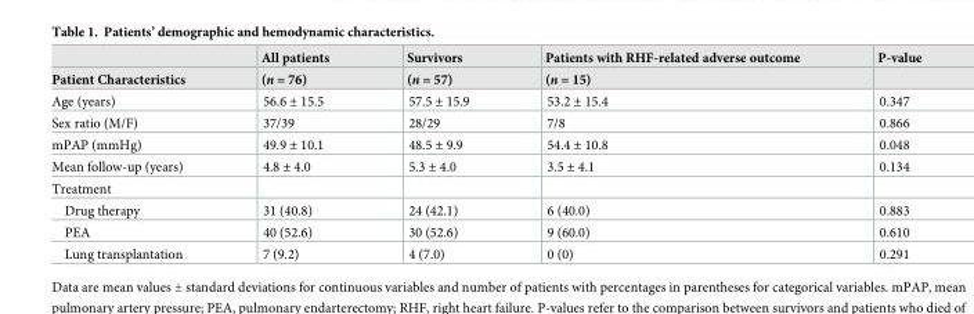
<table><thead><tr><td rowspan="2">Patient Characteristics</td><td rowspan="2">All patients (n = 76)</td><td rowspan="2">Survivors (n = 57)</td><td rowspan="2">Patients with RHF-related adverse outcome (n = 15)</td><td rowspan="2">P-value</td></tr><tr></tr></thead><tbody><tr><td>Age (years)</td><td>56.6 ± 15.5</td><td>57.5 ± 15.9</td><td>53.2 ± 15.4</td><td>0.347</td></tr><tr><td>Sex ratio (M/F)</td><td>37/39</td><td>28/29</td><td>7/8</td><td>0.866</td></tr><tr><td>mPAP (mmHg)</td><td>49.9 ± 10.1</td><td>48.5 ± 9.9</td><td>54.4 ± 10.8</td><td>0.048</td></tr><tr><td>Mean follow-up (years)</td><td>4.8 ± 4.0</td><td>5.3 ± 4.0</td><td>3.5 ± 4.1</td><td>0.134</td></tr><tr><td colspan="5">Treatment</td></tr><tr><td>Drug therapy</td><td>31 (40.8)</td><td>24 (42.1)</td><td>6 (40.0)</td><td>0.883</td></tr><tr><td>PEA</td><td>40 (52.6)</td><td>30 (52.6)</td><td>9 (60.0)</td><td>0.610</td></tr><tr><td>Lung transplantation</td><td>7 (9.2)</td><td>4 (7.0)</td><td>0 (0)</td><td>0.291</td></tr></tbody></table>